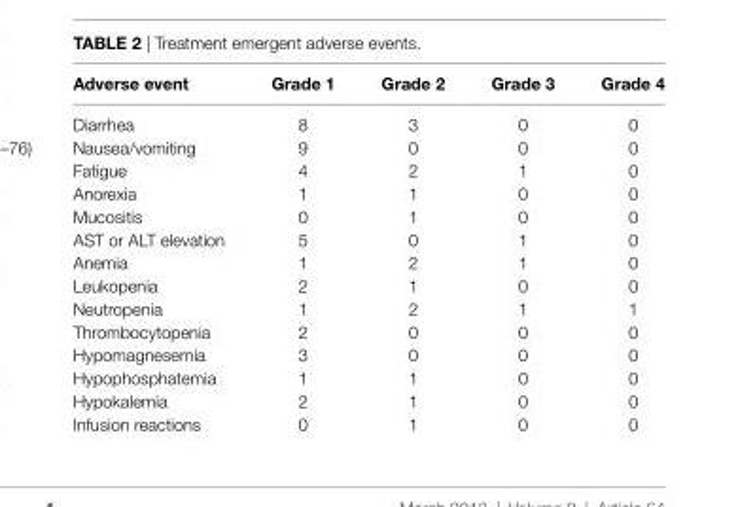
<table><thead><tr><td>adverse event</td><td>Grade 1</td><td>Grade 2</td><td>Grade 3</td><td>Grade 4</td></tr></thead><tbody><tr><td>Diarrhea</td><td>8</td><td>3</td><td>0</td><td>0</td></tr><tr><td>Nausea/vomiting</td><td>9</td><td>0</td><td>0</td><td>0</td></tr><tr><td>Fatigue</td><td>4</td><td>2</td><td>1</td><td>0</td></tr><tr><td>Anorexia</td><td>1</td><td>1</td><td>0</td><td>0</td></tr><tr><td>Mucositis</td><td>0</td><td>1</td><td>0</td><td>0</td></tr><tr><td>AST or ALT elevation</td><td>5</td><td>0</td><td>1</td><td>0</td></tr><tr><td>Anemia</td><td>1</td><td>2</td><td>1</td><td>0</td></tr><tr><td>Leukopenia</td><td>2</td><td>1</td><td>0</td><td>0</td></tr><tr><td>Neutropenia</td><td>1</td><td>2</td><td>1</td><td>1</td></tr><tr><td>Thrombocytopenia</td><td>2</td><td>0</td><td>0</td><td>0</td></tr><tr><td>Hypomagnesemia</td><td>3</td><td>0</td><td>0</td><td>0</td></tr><tr><td>Hypophosphatemia</td><td>1</td><td>1</td><td>0</td><td>0</td></tr><tr><td>Hypokalemia</td><td>2</td><td>1</td><td>0</td><td>0</td></tr><tr><td>Infusion reactions</td><td>0</td><td>1</td><td>0</td><td>0</td></tr></tbody></table>